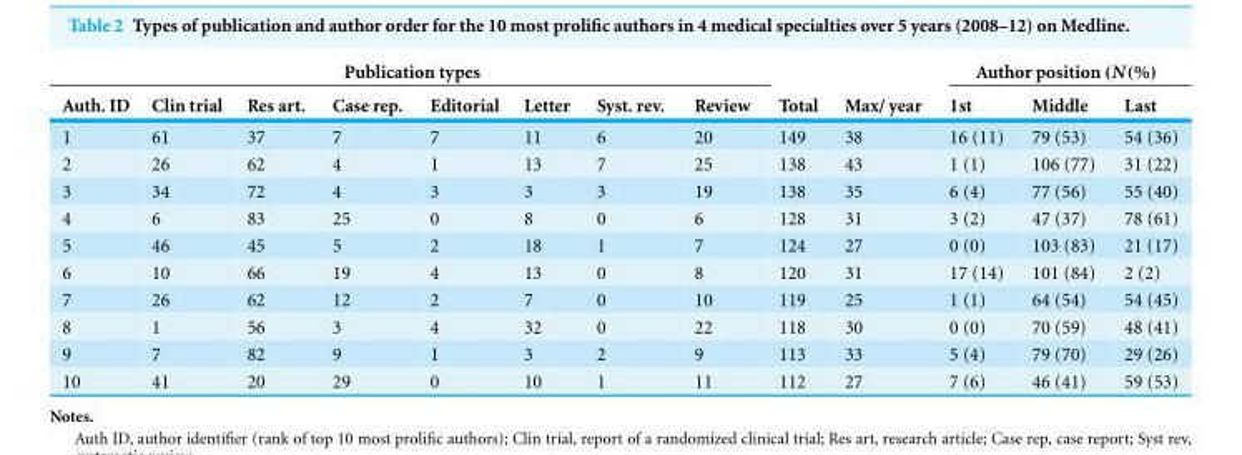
<table><thead><tr><td colspan="8">Publication types</td><td rowspan="2">Total</td><td rowspan="2">Max/ year</td><td colspan="3">Author position (N(%)</td></tr><tr><td>Auth. ID</td><td>Clin trial</td><td>Res art.</td><td>Case rep.</td><td>Editorial</td><td>Letter</td><td>Syst. rev.</td><td>Review</td><td>1st</td><td>Middle</td><td>Last</td></tr></thead><tbody><tr><td>1</td><td>61</td><td>37</td><td>7</td><td>7</td><td>11</td><td>6</td><td>20</td><td>149</td><td>38</td><td>16 (11)</td><td>79 (53)</td><td>54 (36)</td></tr><tr><td>2</td><td>26</td><td>62</td><td>4</td><td>1</td><td>13</td><td>7</td><td>25</td><td>138</td><td>43</td><td>1 (1)</td><td>106 (77)</td><td>31 (22)</td></tr><tr><td>3</td><td>34</td><td>72</td><td>4</td><td>3</td><td>3</td><td>3</td><td>19</td><td>138</td><td>35</td><td>6 (4)</td><td>77 (56)</td><td>55 (40)</td></tr><tr><td>4</td><td>6</td><td>83</td><td>25</td><td>0</td><td>8</td><td>0</td><td>6</td><td>128</td><td>31</td><td>3 (2)</td><td>47 (37)</td><td>78 (61)</td></tr><tr><td>5</td><td>46</td><td>45</td><td>5</td><td>2</td><td>18</td><td>1</td><td>7</td><td>124</td><td>27</td><td>0 (0)</td><td>103 (83)</td><td>21 (17)</td></tr><tr><td>6</td><td>10</td><td>66</td><td>19</td><td>4</td><td>13</td><td>0</td><td>8</td><td>120</td><td>31</td><td>17 (14)</td><td>101 (84)</td><td>2 (2)</td></tr><tr><td>7</td><td>26</td><td>62</td><td>12</td><td>2</td><td>7</td><td>0</td><td>10</td><td>119</td><td>25</td><td>1 (1)</td><td>64 (54)</td><td>54 (45)</td></tr><tr><td>8</td><td>1</td><td>56</td><td>3</td><td>4</td><td>32</td><td>0</td><td>22</td><td>118</td><td>30</td><td>0 (0)</td><td>70 (59)</td><td>48 (41)</td></tr><tr><td>9</td><td>7</td><td>82</td><td>9</td><td>1</td><td>3</td><td>2</td><td>9</td><td>113</td><td>33</td><td>5 (4)</td><td>79 (70)</td><td>29 (26)</td></tr><tr><td>10</td><td>41</td><td>20</td><td>29</td><td>0</td><td>10</td><td>1</td><td>11</td><td>112</td><td>27</td><td>7 (6)</td><td>46 (41)</td><td>59 (53)</td></tr></tbody></table>